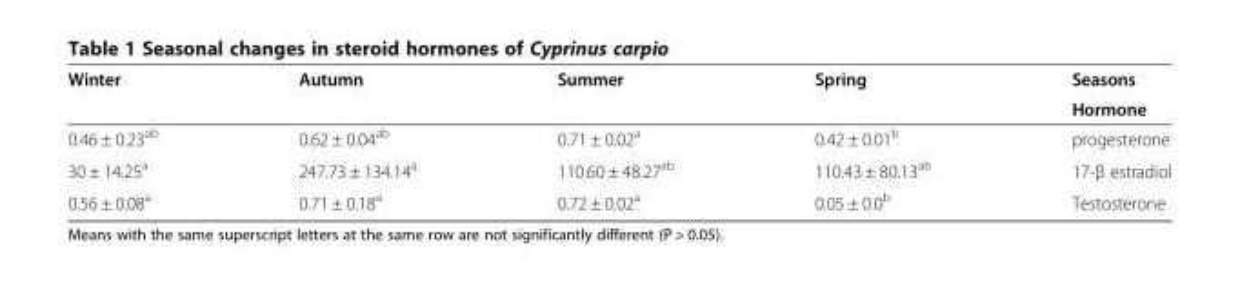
<table><thead><tr><td rowspan="2">Winter</td><td rowspan="2">Autumn</td><td rowspan="2">Summer</td><td rowspan="2">Spring</td><td rowspan="2">Seasons Hormone</td></tr><tr></tr></thead><tbody><tr><td>0.46 ± 0.23<sup>ab</sup></td><td>0.62 ± 0.04<sup>ab</sup></td><td>0.71 ± 0.02<sup>a</sup></td><td>0.42 ± 0.01<sup>b</sup></td><td>progesterone</td></tr><tr><td>30 ± 14.25<sup>a</sup></td><td>247.73 ± 134.14<sup>a</sup></td><td>110.60 ± 48.27<sup>ab</sup></td><td>110.43 ± 80.13<sup>ab</sup></td><td>17-β estradiol</td></tr><tr><td>0.56 ± 0.08<sup>a</sup></td><td>0.71 ± 0.18<sup>a</sup></td><td>0.72 ± 0.02<sup>a</sup></td><td>0.05 ± 0.0<sup>b</sup></td><td>Testosterone</td></tr></tbody></table>